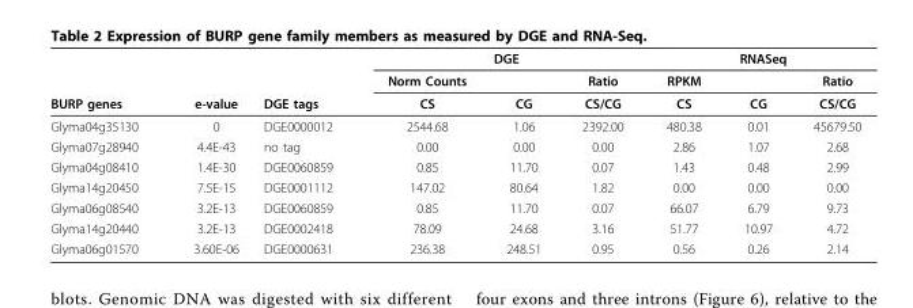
<table><thead><tr><td rowspan="3">BURP genes</td><td rowspan="3">e-value</td><td rowspan="3">DGE tags</td><td colspan="3">DGE</td><td colspan="3">RNASeq</td></tr><tr><td rowspan="2">Norm Counts CS</td><td rowspan="2">CG</td><td rowspan="2">Ratio CS/CG</td><td rowspan="2">RPKM CS</td><td rowspan="2">CG</td><td rowspan="2">Ratio CS/CG</td></tr><tr></tr></thead><tbody><tr><td>Glyma04g35130</td><td>0</td><td>DGE0000012</td><td>2544.68</td><td>1.06</td><td>2392.00</td><td>480.38</td><td>0.01</td><td>45679.50</td></tr><tr><td>Glyma07g28940</td><td>4.4E-43</td><td>no tag</td><td>0.00</td><td>0.00</td><td>0.00</td><td>2.86</td><td>1.07</td><td>2.68</td></tr><tr><td>Glyma04g08410</td><td>1.4E-30</td><td>DGE0060859</td><td>0.85</td><td>11.70</td><td>0.07</td><td>1.43</td><td>0.48</td><td>2.99</td></tr><tr><td>Glyma14g20450</td><td>7.5E-15</td><td>DGE0001112</td><td>147.02</td><td>80.64</td><td>1.82</td><td>0.00</td><td>0.00</td><td>0.00</td></tr><tr><td>Glyma06g08540</td><td>3.2E-13</td><td>DGE0060859</td><td>0.85</td><td>11.70</td><td>0.07</td><td>66.07</td><td>6.79</td><td>9.73</td></tr><tr><td>Glyma14g20440</td><td>3.2E-13</td><td>DGE0002418</td><td>78.09</td><td>24.68</td><td>3.16</td><td>51.77</td><td>10.97</td><td>4.72</td></tr><tr><td>Glyma06g01570</td><td>3.60E-06</td><td>DGE0000631</td><td>236.38</td><td>248.51</td><td>0.95</td><td>0.56</td><td>0.26</td><td>2.14</td></tr></tbody></table>